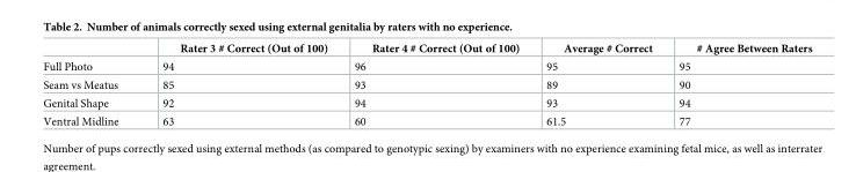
<table><thead><tr><td></td><td>Rater 3 # Correct (Out of 100)</td><td>Rater 4 # Correct (Out of 100)</td><td>Average # Correct</td><td># Agree Between Raters</td></tr></thead><tbody><tr><td>Full Photo</td><td>94</td><td>96</td><td>95</td><td>95</td></tr><tr><td>Seam vs Meatus</td><td>85</td><td>93</td><td>89</td><td>90</td></tr><tr><td>Genital Shape</td><td>92</td><td>94</td><td>93</td><td>94</td></tr><tr><td>Ventral Midline</td><td>63</td><td>60</td><td>61.5</td><td>77</td></tr></tbody></table>